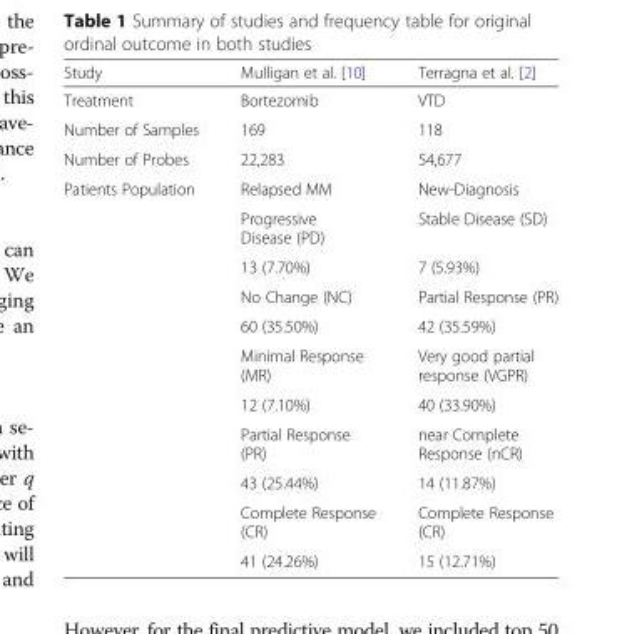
<table><thead><tr><td>Study</td><td>Mulligan et al. [10]</td><td>Terragna et al. [2]</td></tr></thead><tbody><tr><td>Treatment</td><td>Bortezomib</td><td>VTD</td></tr><tr><td>Number of Samples</td><td>169</td><td>118</td></tr><tr><td>Number of Probes</td><td>22,283</td><td>54,677</td></tr><tr><td rowspan="11">Patients Population</td><td>Relapsed MM</td><td>New-Diagnosis</td></tr><tr><td>Progressive Disease (PD)</td><td>Stable Disease (SD)</td></tr><tr><td>13 (7.70%)</td><td>7 (5.93%)</td></tr><tr><td>No Change (NC)</td><td>Partial Response (PR)</td></tr><tr><td>60 (35.50%)</td><td>42 (35.59%)</td></tr><tr><td>Minimal Response (MR)</td><td>Very good partial response (VGPR)</td></tr><tr><td>12 (7.10%)</td><td>40 (33.90%)</td></tr><tr><td>Partial Response (PR)</td><td>near Complete Response (nCR)</td></tr><tr><td>43 (25.44%)</td><td>14 (11.87%)</td></tr><tr><td>Complete Response (CR)</td><td>Complete Response (CR)</td></tr><tr><td>41 (24.26%)</td><td>15 (12.71%)</td></tr></tbody></table>